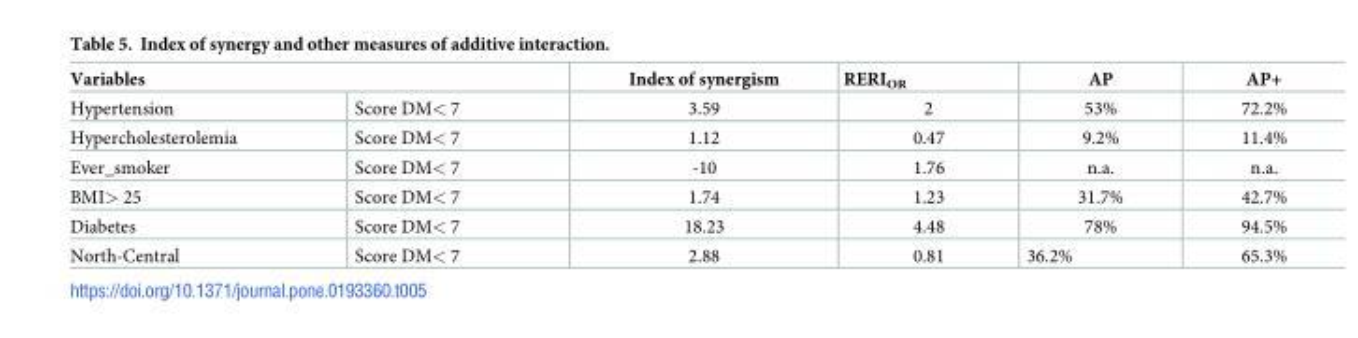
<table><thead><tr><td colspan="2">Variables</td><td rowspan="2">Index of synergism 3.59</td><td rowspan="2">RERI<sub>OR</sub> 2</td><td rowspan="2">AP 53%</td><td rowspan="2">AP+ 72.2%</td></tr><tr><td>Hypertension</td><td>Score DM&lt; 7</td></tr></thead><tbody><tr><td>Hypercholesterolemia</td><td>Score DM&lt; 7</td><td>1.12</td><td>0.47</td><td>9.2%</td><td>11.4%</td></tr><tr><td>Ever_smoker</td><td>Score DM&lt; 7</td><td>-10</td><td>1.76</td><td>n.a.</td><td>n.a.</td></tr><tr><td>BMI&gt; 25</td><td>Score DM&lt; 7</td><td>1.74</td><td>1.23</td><td>31.7%</td><td>42.7%</td></tr><tr><td>Diabetes</td><td>Score DM&lt; 7</td><td>18.23</td><td>4.48</td><td>78%</td><td>94.5%</td></tr><tr><td>North-Central</td><td>Score DM&lt; 7</td><td>2.88</td><td>0.81</td><td>36.2%</td><td>65.3%</td></tr></tbody></table>